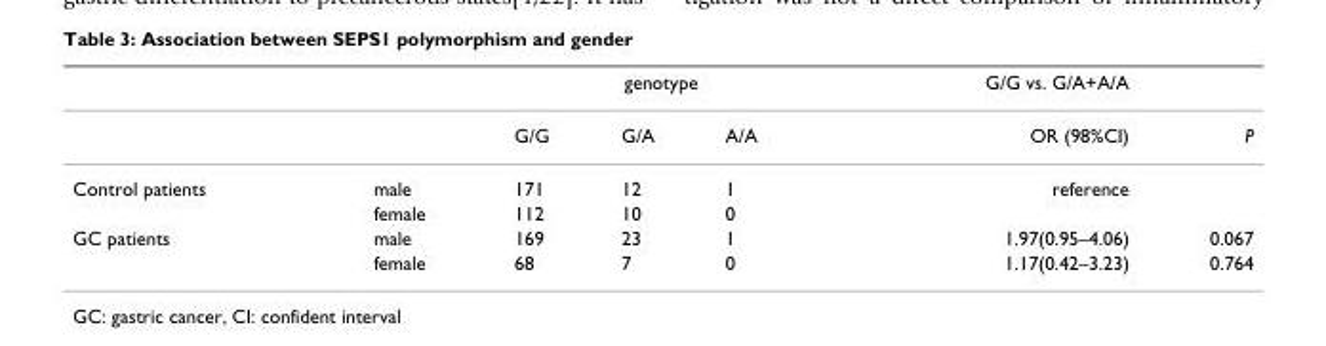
<table><thead><tr><td rowspan="2"></td><td rowspan="2"></td><td colspan="3">genotype</td><td rowspan="2">G/G vs. G/A+A/A OR (98%CI)</td><td rowspan="2">P</td></tr><tr><td>G/G</td><td>G/A</td><td>A/A</td></tr></thead><tbody><tr><td rowspan="2">Control patients</td><td>male</td><td>171</td><td>12</td><td>1</td><td>reference</td><td></td></tr><tr><td>female</td><td>112</td><td>10</td><td>0</td><td></td><td></td></tr><tr><td rowspan="2">GC patients</td><td>male</td><td>169</td><td>23</td><td>1</td><td>1.97(0.95–4.06)</td><td>0.067</td></tr><tr><td>female</td><td>68</td><td>7</td><td>0</td><td>1.17(0.42–3.23)</td><td>0.764</td></tr></tbody></table>